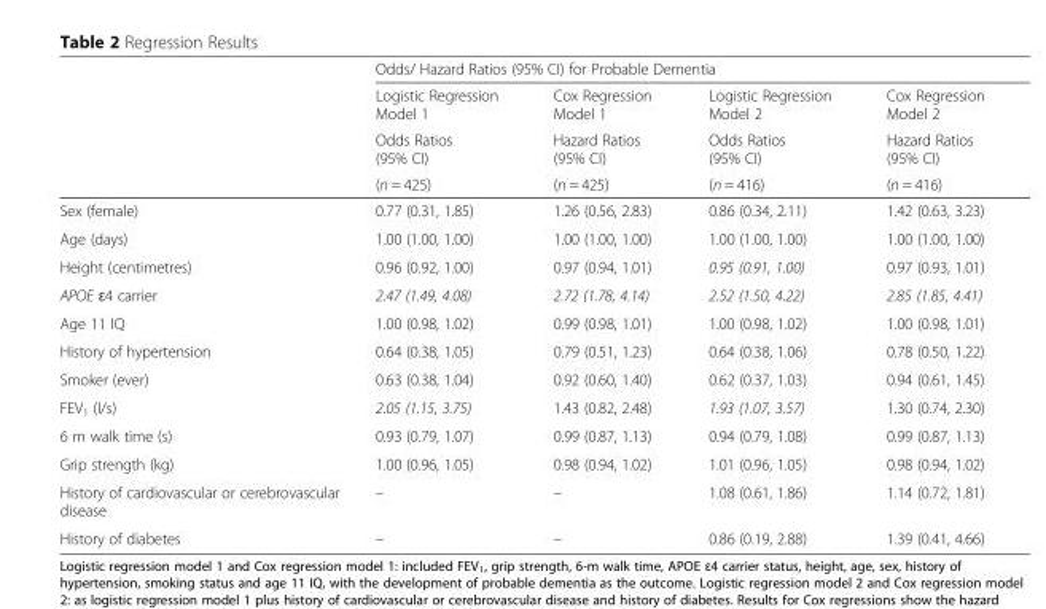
<table><thead><tr><td rowspan="4"></td><td colspan="4">Odds/ Hazard Ratios (95% CI) for Probable Dementia</td></tr><tr><td rowspan="3">Logistic Regression Model 1 Odds Ratios (95% CI) (n = 425)</td><td rowspan="3">Cox Regression Model 1 Hazard Ratios (95% CI) (n = 425)</td><td rowspan="3">Logistic Regression Model 2 Odds Ratios (95% CI) (n = 416)</td><td rowspan="3">Cox Regression Model 2 Hazard Ratios (95% CI) (n = 416)</td></tr><tr></tr><tr></tr></thead><tbody><tr><td>Sex (female)</td><td>0.77 (0.31, 1.85)</td><td>1.26 (0.56, 2.83)</td><td>0.86 (0.34, 2.11)</td><td>1.42 (0.63, 3.23)</td></tr><tr><td>Age (days)</td><td>1.00 (1.00, 1.00)</td><td>1.00 (1.00, 1.00)</td><td>1.00 (1.00, 1.00)</td><td>1.00 (1.00, 1.00)</td></tr><tr><td>Height (centimetres)</td><td>0.96 (0.92, 1.00)</td><td>0.97 (0.94, 1.01)</td><td>0.95 (0.91, 1.00)</td><td>0.97 (0.93, 1.01)</td></tr><tr><td>APOE ɛ4 carrier</td><td>2.47 (1.49, 4.08)</td><td>2.72 (1.78, 4.14)</td><td>2.52 (1.50, 4.22)</td><td>2.85 (1.85, 4.41)</td></tr><tr><td>Age 11 IQ</td><td>1.00 (0.98, 1.02)</td><td>0.99 (0.98, 1.01)</td><td>1.00 (0.98, 1.02)</td><td>1.00 (0.98, 1.01)</td></tr><tr><td>History of hypertension</td><td>0.64 (0.38, 1.05)</td><td>0.79 (0.51, 1.23)</td><td>0.64 (0.38, 1.06)</td><td>0.78 (0.50, 1.22)</td></tr><tr><td>Smoker (ever)</td><td>0.63 (0.38, 1.04)</td><td>0.92 (0.60, 1.40)</td><td>0.62 (0.37, 1.03)</td><td>0.94 (0.61, 1.45)</td></tr><tr><td>FEV<sub>1</sub> (l/s)</td><td>2.05 (1.15, 3.75)</td><td>1.43 (0.82, 2.48)</td><td>1.93 (1.07, 3.57)</td><td>1.30 (0.74, 2.30)</td></tr><tr><td>6 m walk time (s)</td><td>0.93 (0.79, 1.07)</td><td>0.99 (0.87, 1.13)</td><td>0.94 (0.79, 1.08)</td><td>0.99 (0.87, 1.13)</td></tr><tr><td>Grip strength (kg)</td><td>1.00 (0.96, 1.05)</td><td>0.98 (0.94, 1.02)</td><td>1.01 (0.96, 1.05)</td><td>0.98 (0.94, 1.02)</td></tr><tr><td>History of cardiovascular or cerebrovascular disease</td><td>–</td><td>–</td><td>1.08 (0.61, 1.86)</td><td>1.14 (0.72, 1.81)</td></tr><tr><td>History of diabetes</td><td>–</td><td>–</td><td>0.86 (0.19, 2.88)</td><td>1.39 (0.41, 4.66)</td></tr></tbody></table>